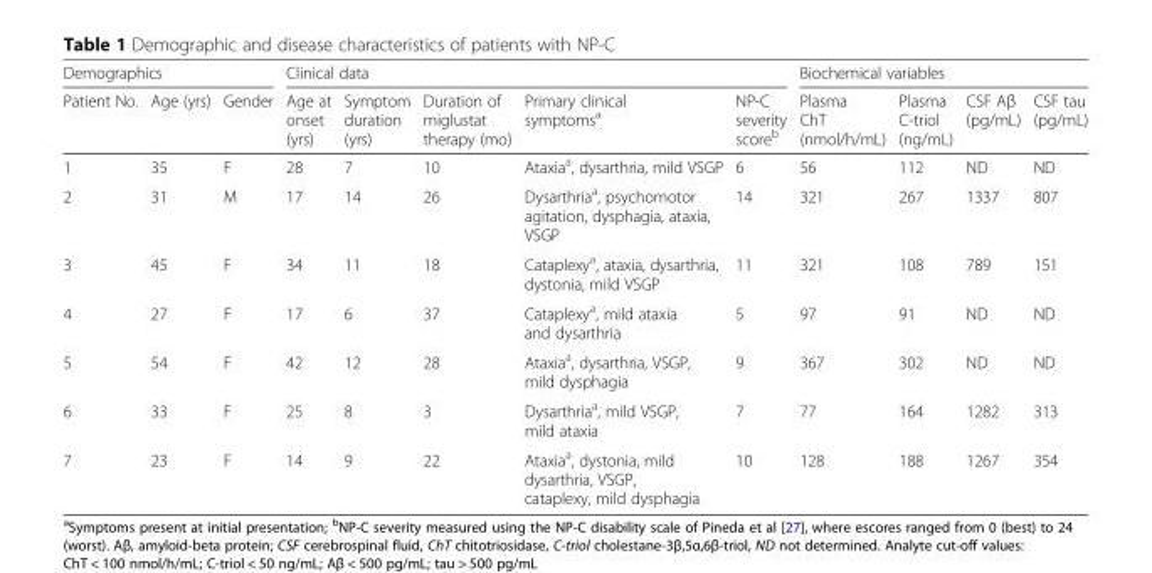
<table><thead><tr><td colspan="3">Demographics</td><td colspan="5">Clinical data</td><td colspan="4">Biochemical variables</td></tr><tr><td>Patient No.</td><td>Age (yrs)</td><td>Gender</td><td>Age at onset (yrs)</td><td>Symptom duration (yrs)</td><td>Duration of miglustat therapy (mo)</td><td>Primary clinical symptoms<sup>a</sup></td><td>NP-C severity score<sup>b</sup></td><td>Plasma ChT (nmol/h/mL)</td><td>Plasma C-triol (ng/mL)</td><td>CSF Aβ (pg/mL)</td><td>CSF tau (pg/mL)</td></tr></thead><tbody><tr><td>1</td><td>35</td><td>F</td><td>28</td><td>7</td><td>10</td><td>Ataxia<sup>a</sup>, dysarthria, mild VSGP</td><td>6</td><td>56</td><td>112</td><td>ND</td><td>ND</td></tr><tr><td>2</td><td>31</td><td>M</td><td>17</td><td>14</td><td>26</td><td>Dysarthria<sup>a</sup>, psychomotor agitation, dysphagia, ataxia, VSGP</td><td>14</td><td>321</td><td>267</td><td>1337</td><td>807</td></tr><tr><td>3</td><td>45</td><td>F</td><td>34</td><td>11</td><td>18</td><td>Cataplexy<sup>a</sup>, ataxia, dysarthria, dystonia, mild VSGP</td><td>11</td><td>321</td><td>108</td><td>789</td><td>151</td></tr><tr><td>4</td><td>27</td><td>F</td><td>17</td><td>6</td><td>37</td><td>Cataplexy<sup>a</sup>, mild ataxia and dysarthria</td><td>5</td><td>97</td><td>91</td><td>ND</td><td>ND</td></tr><tr><td>5</td><td>54</td><td>F</td><td>42</td><td>12</td><td>28</td><td>Ataxia<sup>a</sup>, dysarthria, VSGP, mild dysphagia</td><td>9</td><td>367</td><td>302</td><td>ND</td><td>ND</td></tr><tr><td>6</td><td>33</td><td>F</td><td>25</td><td>8</td><td>3</td><td>Dysarthria<sup>a</sup>, mild VSGP, mild ataxia</td><td>7</td><td>77</td><td>164</td><td>1282</td><td>313</td></tr><tr><td>7</td><td>23</td><td>F</td><td>14</td><td>9</td><td>22</td><td>Ataxia<sup>a</sup>, dystonia, mild dysarthria, VSGP, cataplexy, mild dysphagia</td><td>10</td><td>128</td><td>188</td><td>1267</td><td>354</td></tr></tbody></table>